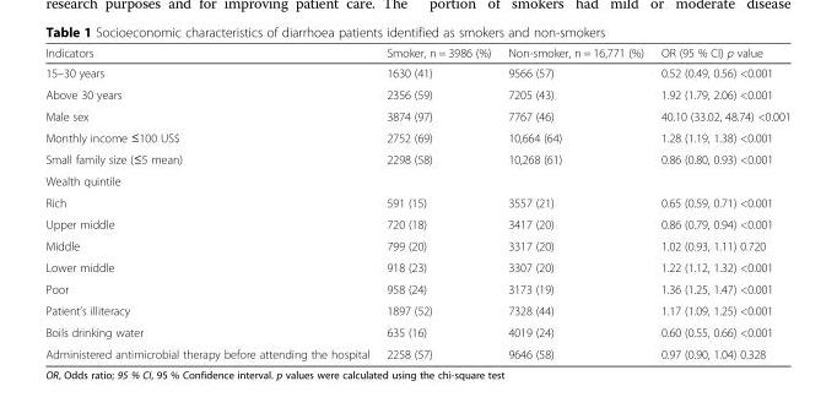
<table><thead><tr><td>Indicators</td><td>Smoker, n = 3986 (%)</td><td>Non-smoker, n = 16,771 (%)</td><td>OR (95 % CI) p value</td></tr></thead><tbody><tr><td>15–30 years</td><td>1630 (41)</td><td>9566 (57)</td><td>0.52 (0.49, 0.56) &lt;0.001</td></tr><tr><td>Above 30 years</td><td>2356 (59)</td><td>7205 (43)</td><td>1.92 (1.79, 2.06) &lt;0.001</td></tr><tr><td>Male sex</td><td>3874 (97)</td><td>7767 (46)</td><td>40.10 (33.02, 48.74) &lt;0.001</td></tr><tr><td>Monthly income ≤100 US$</td><td>2752 (69)</td><td>10,664 (64)</td><td>1.28 (1.19, 1.38) &lt;0.001</td></tr><tr><td>Small family size (≤5 mean)</td><td>2298 (58)</td><td>10,268 (61)</td><td>0.86 (0.80, 0.93) &lt;0.001</td></tr><tr><td colspan="4">Wealth quintile</td></tr><tr><td>Rich</td><td>591 (15)</td><td>3557 (21)</td><td>0.65 (0.59, 0.71) &lt;0.001</td></tr><tr><td>Upper middle</td><td>720 (18)</td><td>3417 (20)</td><td>0.86 (0.79, 0.94) &lt;0.001</td></tr><tr><td>Middle</td><td>799 (20)</td><td>3317 (20)</td><td>1.02 (0.93, 1.11) 0.720</td></tr><tr><td>Lower middle</td><td>918 (23)</td><td>3307 (20)</td><td>1.22 (1.12, 1.32) &lt;0.001</td></tr><tr><td>Poor</td><td>958 (24)</td><td>3173 (19)</td><td>1.36 (1.25, 1.47) &lt;0.001</td></tr><tr><td>Patient’s illiteracy</td><td>1897 (52)</td><td>7328 (44)</td><td>1.17 (1.09, 1.25) &lt;0.001</td></tr><tr><td>Boils drinking water</td><td>635 (16)</td><td>4019 (24)</td><td>0.60 (0.55, 0.66) &lt;0.001</td></tr><tr><td>Administered antimicrobial therapy before attending the hospital</td><td>2258 (57)</td><td>9646 (58)</td><td>0.97 (0.90, 1.04) 0.328</td></tr></tbody></table>